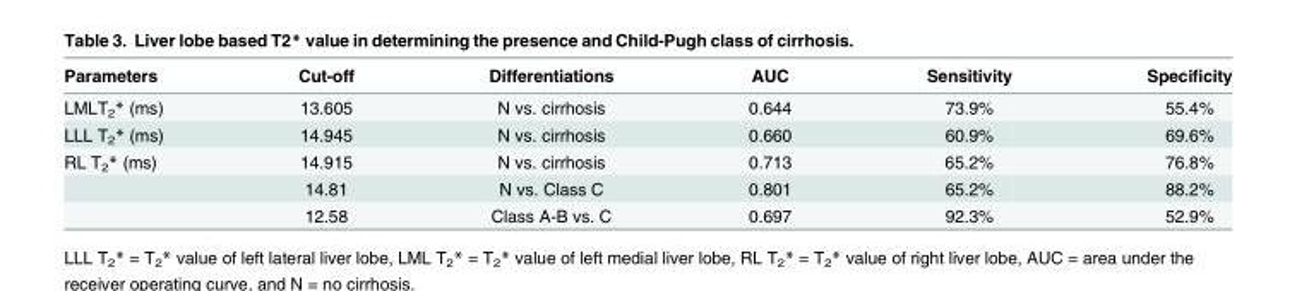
<table><thead><tr><td>Parameters</td><td>Cut-off</td><td>Differentiations</td><td>AUC</td><td>Sensitivity</td><td>Specificity</td></tr></thead><tbody><tr><td>LMLT<sub>2</sub>* (ms)</td><td>13.605</td><td>N vs. cirrhosis</td><td>0.644</td><td>73.9%</td><td>55.4%</td></tr><tr><td>LLL T<sub>2</sub>* (ms)</td><td>14.945</td><td>N vs. cirrhosis</td><td>0.660</td><td>60.9%</td><td>69.6%</td></tr><tr><td rowspan="3">RL T<sub>2</sub>* (ms)</td><td>14.915</td><td>N vs. cirrhosis</td><td>0.713</td><td>65.2%</td><td>76.8%</td></tr><tr><td>14.81</td><td>N vs. Class C</td><td>0.801</td><td>65.2%</td><td>88.2%</td></tr><tr><td>12.58</td><td>Class A-B vs. C</td><td>0.697</td><td>92.3%</td><td>52.9%</td></tr></tbody></table>